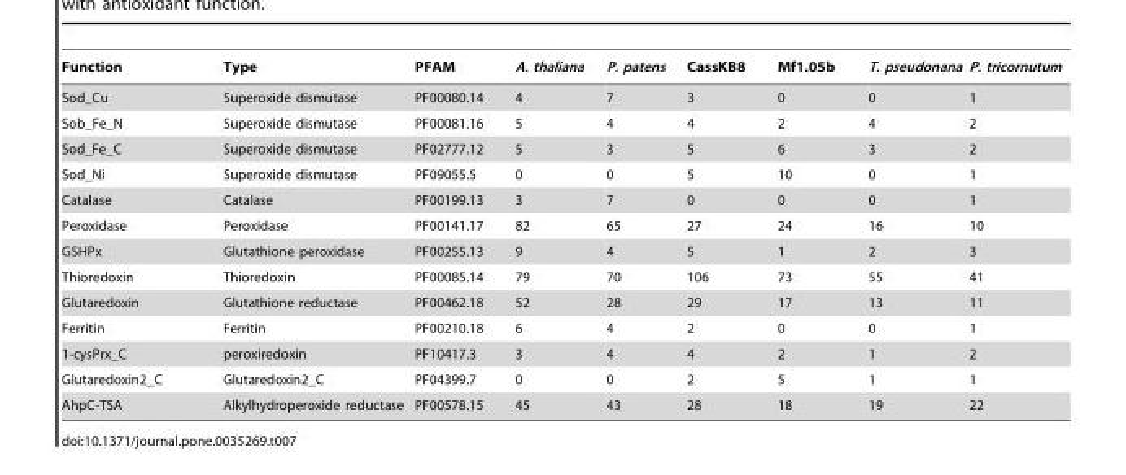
<table><thead><tr><td>Function</td><td>Type</td><td>PFAM</td><td>A. thaliana</td><td>P. patens</td><td>CassKB8</td><td>Mf1.05b</td><td>T. pseudonana</td><td>P. tricornutum</td></tr></thead><tbody><tr><td>Sod_Cu</td><td>Superoxide dismutase</td><td>PF00080.14</td><td>4</td><td>7</td><td>3</td><td>0</td><td>0</td><td>1</td></tr><tr><td>Sob_Fe_N</td><td>Superoxide dismutase</td><td>PF00081.16</td><td>5</td><td>4</td><td>4</td><td>2</td><td>4</td><td>2</td></tr><tr><td>Sod_Fe_C</td><td>Superoxide dismutase</td><td>PF02777.12</td><td>5</td><td>3</td><td>5</td><td>6</td><td>3</td><td>2</td></tr><tr><td>Sod_Ni</td><td>Superoxide dismutase</td><td>PF09055.5</td><td>0</td><td>0</td><td>5</td><td>10</td><td>0</td><td>1</td></tr><tr><td>Catalase</td><td>Catalase</td><td>PF00199.13</td><td>3</td><td>7</td><td>0</td><td>0</td><td>0</td><td>1</td></tr><tr><td>Peroxidase</td><td>Peroxidase</td><td>PF00141.17</td><td>82</td><td>65</td><td>27</td><td>24</td><td>16</td><td>10</td></tr><tr><td>GSHPx</td><td>Glutathione peroxidase</td><td>PF00255.13</td><td>9</td><td>4</td><td>5</td><td>1</td><td>2</td><td>3</td></tr><tr><td>Thioredoxin</td><td>Thioredoxin</td><td>PF00085.14</td><td>79</td><td>70</td><td>106</td><td>73</td><td>55</td><td>41</td></tr><tr><td>Glutaredoxin</td><td>Glutathione reductase</td><td>PF00462.18</td><td>52</td><td>28</td><td>29</td><td>17</td><td>13</td><td>11</td></tr><tr><td>Ferritin</td><td>Ferritin</td><td>PF00210.18</td><td>6</td><td>4</td><td>2</td><td>0</td><td>0</td><td>1</td></tr><tr><td>1-cysPrx_C</td><td>peroxiredoxin</td><td>PF10417.3</td><td>3</td><td>4</td><td>4</td><td>2</td><td>1</td><td>2</td></tr><tr><td>Glutaredoxin2_C</td><td>Glutaredoxin2_C</td><td>PF04399.7</td><td>0</td><td>0</td><td>2</td><td>5</td><td>1</td><td>1</td></tr><tr><td>AhpC-TSA</td><td>Alkylhydroperoxide reductase</td><td>PF00578.15</td><td>45</td><td>43</td><td>28</td><td>18</td><td>19</td><td>22</td></tr></tbody></table>